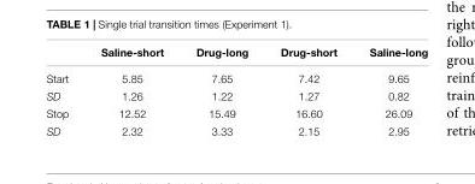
<table><thead><tr><td></td><td>Saline-short</td><td>Drug-long</td><td>Drug-short</td><td>Saline-long</td></tr></thead><tbody><tr><td>Start</td><td>5.85</td><td>7.65</td><td>7.42</td><td>9.65</td></tr><tr><td>SD</td><td>1.26</td><td>1.22</td><td>1.27</td><td>0.82</td></tr><tr><td>Stop</td><td>12.52</td><td>15.49</td><td>16.60</td><td>26.09</td></tr><tr><td>SD</td><td>2.32</td><td>3.33</td><td>2.15</td><td>2.95</td></tr></tbody></table>